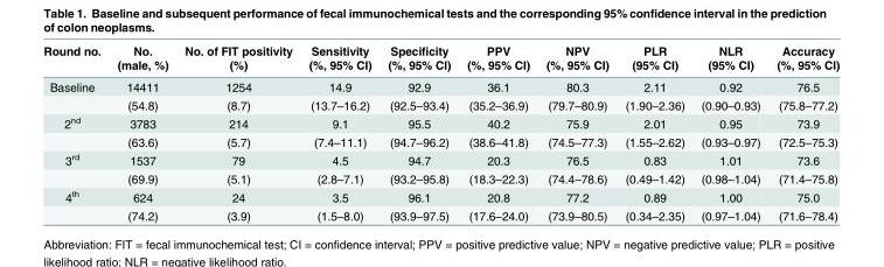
<table><thead><tr><td rowspan="2">Round no.</td><td rowspan="2">No. (male, %)</td><td rowspan="2">No. of FIT positivity (%)</td><td rowspan="2">Sensitivity (%, 95% CI)</td><td rowspan="2">Specificity (%, 95% CI)</td><td rowspan="2">PPV (%, 95% CI)</td><td rowspan="2">NPV (%, 95% CI)</td><td rowspan="2">PLR (95% CI)</td><td rowspan="2">NLR (95% CI)</td><td rowspan="2">Accuracy (%, 95% CI)</td></tr><tr></tr></thead><tbody><tr><td rowspan="2">Baseline</td><td>14411</td><td>1254</td><td>14.9</td><td>92.9</td><td>36.1</td><td>80.3</td><td>2.11</td><td>0.92</td><td>76.5</td></tr><tr><td>(54.8)</td><td>(8.7)</td><td>(13.7–16.2)</td><td>(92.5–93.4)</td><td>(35.2–36.9)</td><td>(79.7–80.9)</td><td>(1.90–2.36)</td><td>(0.90–0.93)</td><td>(75.8–77.2)</td></tr><tr><td rowspan="2">2<sup>nd</sup></td><td>3783</td><td>214</td><td>9.1</td><td>95.5</td><td>40.2</td><td>75.9</td><td>2.01</td><td>0.95</td><td>73.9</td></tr><tr><td>(63.6)</td><td>(5.7)</td><td>(7.4–11.1)</td><td>(94.7–96.2)</td><td>(38.6–41.8)</td><td>(74.5–77.3)</td><td>(1.55–2.62)</td><td>(0.93–0.97)</td><td>(72.5–75.3)</td></tr><tr><td rowspan="2">3<sup>rd</sup></td><td>1537</td><td>79</td><td>4.5</td><td>94.7</td><td>20.3</td><td>76.5</td><td>0.83</td><td>1.01</td><td>73.6</td></tr><tr><td>(69.9)</td><td>(5.1)</td><td>(2.8–7.1)</td><td>(93.2–95.8)</td><td>(18.3–22.3)</td><td>(74.4–78.6)</td><td>(0.49–1.42)</td><td>(0.98–1.04)</td><td>(71.4–75.8)</td></tr><tr><td rowspan="2">4<sup>th</sup></td><td>624</td><td>24</td><td>3.5</td><td>96.1</td><td>20.8</td><td>77.2</td><td>0.89</td><td>1.00</td><td>75.0</td></tr><tr><td>(74.2)</td><td>(3.9)</td><td>(1.5–8.0)</td><td>(93.9–97.5)</td><td>(17.6–24.0)</td><td>(73.9–80.5)</td><td>(0.34–2.35)</td><td>(0.97–1.04)</td><td>(71.6–78.4)</td></tr></tbody></table>